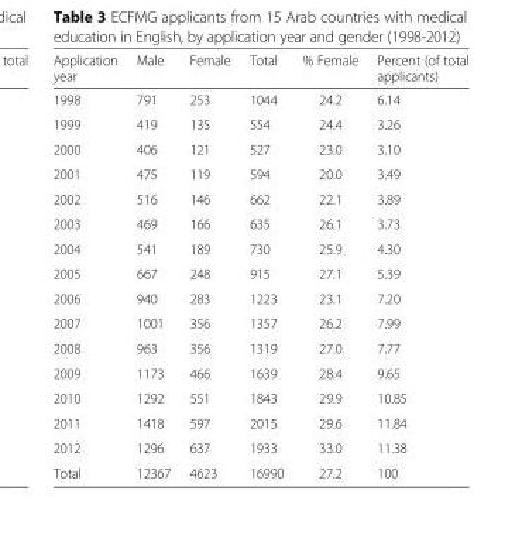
<table><thead><tr><td>Application year</td><td>Male</td><td>Female</td><td>Total</td><td>% Female</td><td>Percent (of total applicants)</td></tr></thead><tbody><tr><td>1998</td><td>791</td><td>253</td><td>1044</td><td>24.2</td><td>6.14</td></tr><tr><td>1999</td><td>419</td><td>135</td><td>554</td><td>24.4</td><td>3.26</td></tr><tr><td>2000</td><td>406</td><td>121</td><td>527</td><td>23.0</td><td>3.10</td></tr><tr><td>2001</td><td>475</td><td>119</td><td>594</td><td>20.0</td><td>3.49</td></tr><tr><td>2002</td><td>516</td><td>146</td><td>662</td><td>22.1</td><td>3.89</td></tr><tr><td>2003</td><td>469</td><td>166</td><td>635</td><td>26.1</td><td>3.73</td></tr><tr><td>2004</td><td>541</td><td>189</td><td>730</td><td>25.9</td><td>4.30</td></tr><tr><td>2005</td><td>667</td><td>248</td><td>915</td><td>27.1</td><td>5.39</td></tr><tr><td>2006</td><td>940</td><td>283</td><td>1223</td><td>23.1</td><td>7.20</td></tr><tr><td>2007</td><td>1001</td><td>356</td><td>1357</td><td>26.2</td><td>7.99</td></tr><tr><td>2008</td><td>963</td><td>356</td><td>1319</td><td>27.0</td><td>7.77</td></tr><tr><td>2009</td><td>1173</td><td>466</td><td>1639</td><td>28.4</td><td>9.65</td></tr><tr><td>2010</td><td>1292</td><td>551</td><td>1843</td><td>29.9</td><td>10.85</td></tr><tr><td>2011</td><td>1418</td><td>597</td><td>2015</td><td>29.6</td><td>11.84</td></tr><tr><td>2012</td><td>1296</td><td>637</td><td>1933</td><td>33.0</td><td>11.38</td></tr><tr><td>Total</td><td>12367</td><td>4623</td><td>16990</td><td>27.2</td><td>100</td></tr></tbody></table>